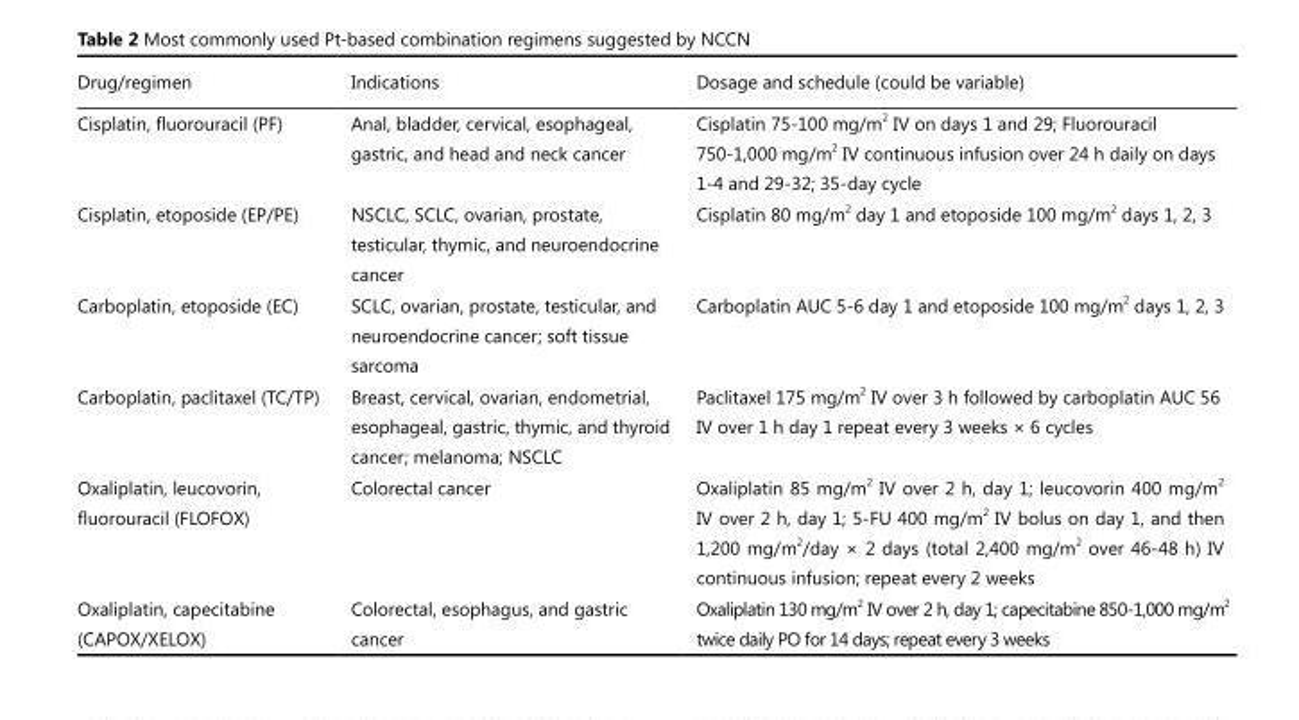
<table><thead><tr><td>Drug/regimen</td><td>Indications</td><td>Dosage and schedule (could be variable)</td></tr></thead><tbody><tr><td>Cisplatin, fluorouracil (PF)</td><td>Anal, bladder, cervical, esophageal, gastric, and head and neck cancer</td><td>Cisplatin 75-100 mg/m <sup>2</sup> IV on days 1 and 29; Fluorouracil 750-1,000 mg/m <sup>2</sup> IV continuous infusion over 24 h daily on days 1-4 and 29-32; 35-day cycle</td></tr><tr><td>Cisplatin, etoposide (EP/PE)</td><td>NSCLC, SCLC, ovarian, prostate, testicular, thymic, and neuroendocrine cancer</td><td>Cisplatin 80 mg/m <sup>2</sup> day 1 and etoposide 100 mg/m <sup>2</sup> days 1, 2, 3</td></tr><tr><td>Carboplatin, etoposide (EC)</td><td>SCLC, ovarian, prostate, testicular, and neuroendocrine cancer; soft tissue sarcoma</td><td>Carboplatin AUC 5-6 day 1 and etoposide 100 mg/m <sup>2</sup> days 1, 2, 3</td></tr><tr><td>Carboplatin, paclitaxel (TC/TP)</td><td>Breast, cervical, ovarian, endometrial, esophageal, gastric, thymic, and thyroid cancer; melanoma; NSCLC</td><td>Paclitaxel 175 mg/m <sup>2</sup> IV over 3 h followed by carboplatin AUC 56 IV over 1 h day 1 repeat every 3 weeks × 6 cycles</td></tr><tr><td>Oxaliplatin, leucovorin, fluorouracil (FLOFOX)</td><td>Colorectal cancer</td><td>Oxaliplatin 85 mg/m <sup>2</sup> IV over 2 h, day 1; leucovorin 400 mg/m <sup>2</sup> IV over 2 h, day 1; 5-FU 400 mg/m <sup>2</sup> IV bolus on day 1, and then 1,200 mg/m <sup>2</sup>/day × 2 days (total 2,400 mg/m <sup>2</sup> over 46-48 h) IV continuous infusion; repeat every 2 weeks</td></tr><tr><td>Oxaliplatin, capecitabine (CAPOX/XELOX)</td><td>Colorectal, esophagus, and gastric cancer</td><td>Oxaliplatin 130 mg/m <sup>2</sup> IV over 2 h, day 1; capecitabine 850-1,000 mg/m <sup>2</sup> twice daily PO for 14 days; repeat every 3 weeks</td></tr></tbody></table>